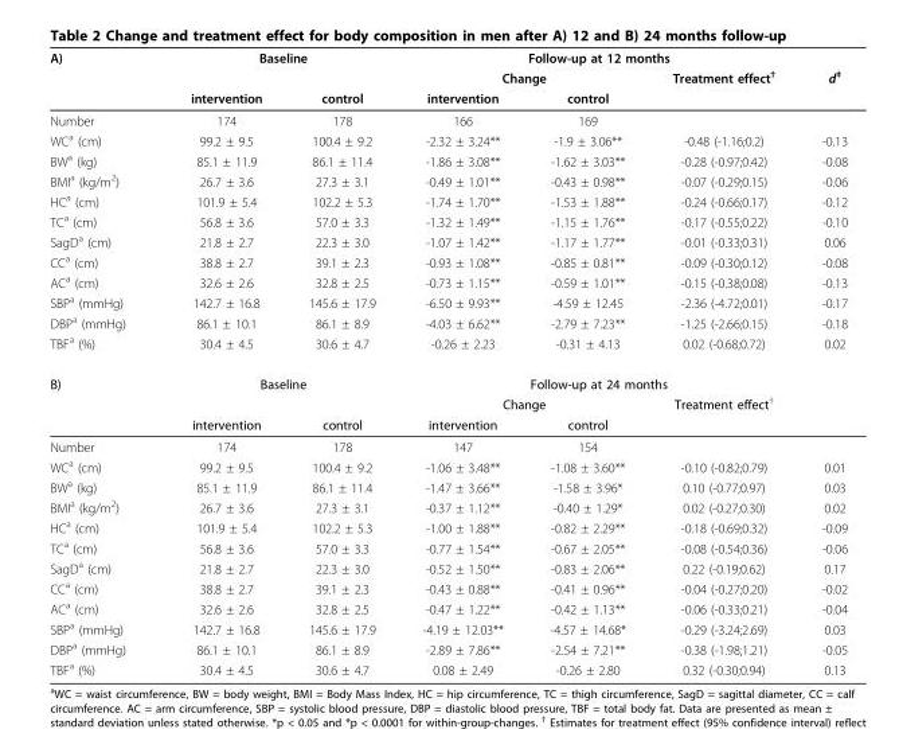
<table><thead><tr><td rowspan="3">A)</td><td colspan="2">Baseline</td><td colspan="3">Follow-up at 12 months</td><td rowspan="3">d<sup>‡</sup></td></tr><tr><td rowspan="2">intervention</td><td rowspan="2">control</td><td colspan="2">Change</td><td rowspan="2">Treatment effect†</td></tr><tr><td>intervention</td><td>control</td></tr></thead><tbody><tr><td>Number</td><td>174</td><td>178</td><td>166</td><td>169</td><td></td><td></td></tr><tr><td>WC<sup>a</sup> (cm)</td><td>99.2 ± 9.5</td><td>100.4 ± 9.2</td><td>-2.32 ± 3.24**</td><td>-1.9 ± 3.06**</td><td>-0.48 (-1.16;0.2)</td><td>-0.13</td></tr><tr><td>BW<sup>a</sup> (kg)</td><td>85.1 ± 11.9</td><td>86.1 ± 11.4</td><td>-1.86 ± 3.08**</td><td>-1.62 ± 3.03**</td><td>-0.28 (-0.97;0.42)</td><td>-0.08</td></tr><tr><td>BMI<sup>a</sup> (kg/m<sup>2</sup>)</td><td>26.7 ± 3.6</td><td>27.3 ± 3.1</td><td>-0.49 ± 1.01**</td><td>-0.43 ± 0.98**</td><td>-0.07 (-0.29;0.15)</td><td>-0.06</td></tr><tr><td>HC<sup>a</sup> (cm)</td><td>101.9 ± 5.4</td><td>102.2 ± 5.3</td><td>-1.74 ± 1.70**</td><td>-1.53 ± 1.88**</td><td>-0.24 (-0.66;0.17)</td><td>-0.12</td></tr><tr><td>TC<sup>a</sup> (cm)</td><td>56.8 ± 3.6</td><td>57.0 ± 3.3</td><td>-1.32 ± 1.49**</td><td>-1.15 ± 1.76**</td><td>-0.17 (-0.55;0.22)</td><td>-0.10</td></tr><tr><td>SagD<sup>a</sup> (cm)</td><td>21.8 ± 2.7</td><td>22.3 ± 3.0</td><td>-1.07 ± 1.42**</td><td>-1.17 ± 1.77**</td><td>-0.01 (-0.33;0.31)</td><td>0.06</td></tr><tr><td>CC<sup>a</sup> (cm)</td><td>38.8 ± 2.7</td><td>39.1 ± 2.3</td><td>-0.93 ± 1.08**</td><td>-0.85 ± 0.81**</td><td>-0.09 (-0.30;0.12)</td><td>-0.08</td></tr><tr><td>AC<sup>a</sup> (cm)</td><td>32.6 ± 2.6</td><td>32.8 ± 2.5</td><td>-0.73 ± 1.15**</td><td>-0.59 ± 1.01**</td><td>-0.15 (-0.38;0.08)</td><td>-0.13</td></tr><tr><td>SBP<sup>a</sup> (mmHg)</td><td>142.7 ± 16.8</td><td>145.6 ± 17.9</td><td>-6.50 ± 9.93**</td><td>-4.59 ± 12.45</td><td>-2.36 (-4.72;0.01)</td><td>-0.17</td></tr><tr><td>DBP<sup>a</sup> (mmHg)</td><td>86.1 ± 10.1</td><td>86.1 ± 8.9</td><td>-4.03 ± 6.62**</td><td>-2.79 ± 7.23**</td><td>-1.25 (-2.66;0.15)</td><td>-0.18</td></tr><tr><td>TBF<sup>a</sup> (%)</td><td>30.4 ± 4.5</td><td>30.6 ± 4.7</td><td>-0.26 ± 2.23</td><td>-0.31 ± 4.13</td><td>0.02 (-0.68;0.72)</td><td>0.02</td></tr><tr><td rowspan="3">B)</td><td colspan="2">Baseline</td><td colspan="3">Follow-up at 24 months</td><td></td></tr><tr><td></td><td></td><td colspan="2">Change</td><td>Treatment effect<sup>†</sup></td><td></td></tr><tr><td>intervention</td><td>control</td><td>intervention</td><td>control</td><td></td><td></td></tr><tr><td>Number</td><td>174</td><td>178</td><td>147</td><td>154</td><td></td><td></td></tr><tr><td>WC<sup>a</sup> (cm)</td><td>99.2 ± 9.5</td><td>100.4 ± 9.2</td><td>-1.06 ± 3.48**</td><td>-1.08 ± 3.60**</td><td>-0.10 (-0.82;0.79)</td><td>0.01</td></tr><tr><td>BW<sup>a</sup> (kg)</td><td>85.1 ± 11.9</td><td>86.1 ± 11.4</td><td>-1.47 ± 3.66**</td><td>-1.58 ± 3.96*</td><td>0.10 (-0.77;0.97)</td><td>0.03</td></tr><tr><td>BMI<sup>a</sup> (kg/m<sup>2</sup>)</td><td>26.7 ± 3.6</td><td>27.3 ± 3.1</td><td>-0.37 ± 1.12**</td><td>-0.40 ± 1.29*</td><td>0.02 (-0.27;0.30)</td><td>0.02</td></tr><tr><td>HC<sup>a</sup> (cm)</td><td>101.9 ± 5.4</td><td>102.2 ± 5.3</td><td>-1.00 ± 1.88**</td><td>-0.82 ± 2.29**</td><td>-0.18 (-0.69;0.32)</td><td>-0.09</td></tr><tr><td>TC<sup>a</sup> (cm)</td><td>56.8 ± 3.6</td><td>57.0 ± 3.3</td><td>-0.77 ± 1.54**</td><td>-0.67 ± 2.05**</td><td>-0.08 (-0.54;0.36)</td><td>-0.06</td></tr><tr><td>SagD<sup>a</sup> (cm)</td><td>21.8 ± 2.7</td><td>22.3 ± 3.0</td><td>-0.52 ± 1.50**</td><td>-0.83 ± 2.06**</td><td>0.22 (-0.19;0.62)</td><td>0.17</td></tr><tr><td>CC<sup>a</sup> (cm)</td><td>38.8 ± 2.7</td><td>39.1 ± 2.3</td><td>-0.43 ± 0.88**</td><td>-0.41 ± 0.96**</td><td>-0.04 (-0.27;0.20)</td><td>-0.02</td></tr><tr><td>AC<sup>a</sup> (cm)</td><td>32.6 ± 2.6</td><td>32.8 ± 2.5</td><td>-0.47 ± 1.22**</td><td>-0.42 ± 1.13**</td><td>-0.06 (-0.33;0.21)</td><td>-0.04</td></tr><tr><td>SBP<sup>a</sup> (mmHg)</td><td>142.7 ± 16.8</td><td>145.6 ± 17.9</td><td>-4.19 ± 12.03**</td><td>-4.57 ± 14.68*</td><td>-0.29 (-3.24;2.69)</td><td>0.03</td></tr><tr><td>DBP<sup>a</sup> (mmHg)</td><td>86.1 ± 10.1</td><td>86.1 ± 8.9</td><td>-2.89 ± 7.86**</td><td>-2.54 ± 7.21**</td><td>-0.38 (-1.98;1.21)</td><td>-0.05</td></tr><tr><td>TBF<sup>a</sup> (%)</td><td>30.4 ± 4.5</td><td>30.6 ± 4.7</td><td>0.08 ± 2.49</td><td>-0.26 ± 2.80</td><td>0.32 (-0.30;0.94)</td><td>0.13</td></tr></tbody></table>